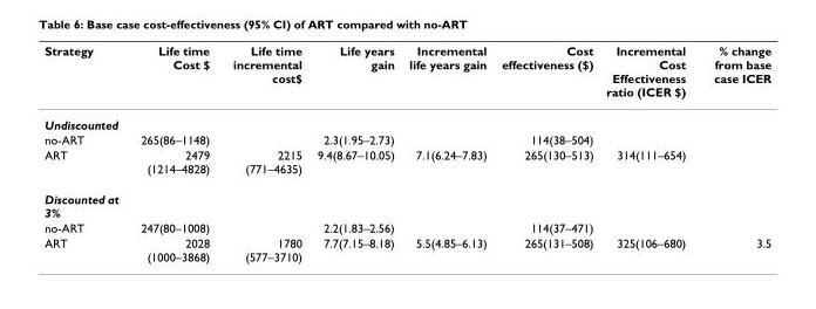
<table><thead><tr><td>Strategy</td><td>Life time Cost $</td><td>Life time incremental cost$</td><td>Life years gain</td><td>Incremental life years gain</td><td>Cost effectiveness ($)</td><td>Incremental Cost Effectiveness ratio (ICER $)</td><td>% change from base case ICER</td></tr></thead><tbody><tr><td colspan="8">Undiscounted</td></tr><tr><td>no-ART</td><td>265(86–1148)</td><td></td><td>2.3(1.95–2.73)</td><td></td><td>114(38–504)</td><td></td><td></td></tr><tr><td>ART</td><td>2479 (1214–4828)</td><td>2215 (771–4635)</td><td>9.4(8.67–10.05)</td><td>7.1(6.24–7.83)</td><td>265(130–513)</td><td>314(111–654)</td><td></td></tr><tr><td colspan="8">Discounted at 3%</td></tr><tr><td>no-ART</td><td>247(80–1008)</td><td></td><td>2.2(1.83–2.56)</td><td></td><td>114(37–471)</td><td></td><td></td></tr><tr><td>ART</td><td>2028 (1000–3868)</td><td>1780 (577–3710)</td><td>7.7(7.15–8.18)</td><td>5.5(4.85–6.13)</td><td>265(131–508)</td><td>325(106–680)</td><td>3.5</td></tr></tbody></table>